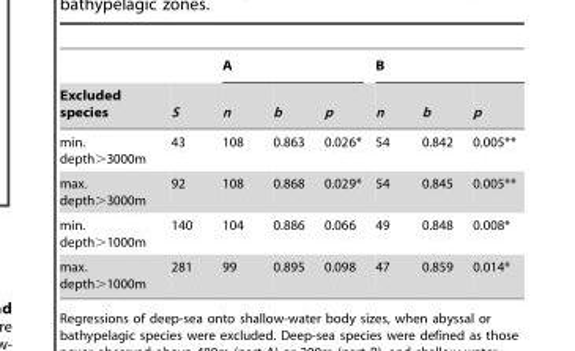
<table><thead><tr><td rowspan="2">Excluded species</td><td rowspan="2">S</td><td colspan="3">A</td><td colspan="3">B</td></tr><tr><td>n</td><td>b</td><td>p</td><td>n</td><td>b</td><td>p</td></tr></thead><tbody><tr><td>min. depth&gt;3000m</td><td>43</td><td>108</td><td>0.863</td><td>0.026*</td><td>54</td><td>0.842</td><td>0.005**</td></tr><tr><td>max. depth&gt;3000m</td><td>92</td><td>108</td><td>0.868</td><td>0.029*</td><td>54</td><td>0.845</td><td>0.005**</td></tr><tr><td>min. depth&gt;1000m</td><td>140</td><td>104</td><td>0.886</td><td>0.066</td><td>49</td><td>0.848</td><td>0.008*</td></tr><tr><td>max. depth&gt;1000m</td><td>281</td><td>99</td><td>0.895</td><td>0.098</td><td>47</td><td>0.859</td><td>0.014*</td></tr></tbody></table>